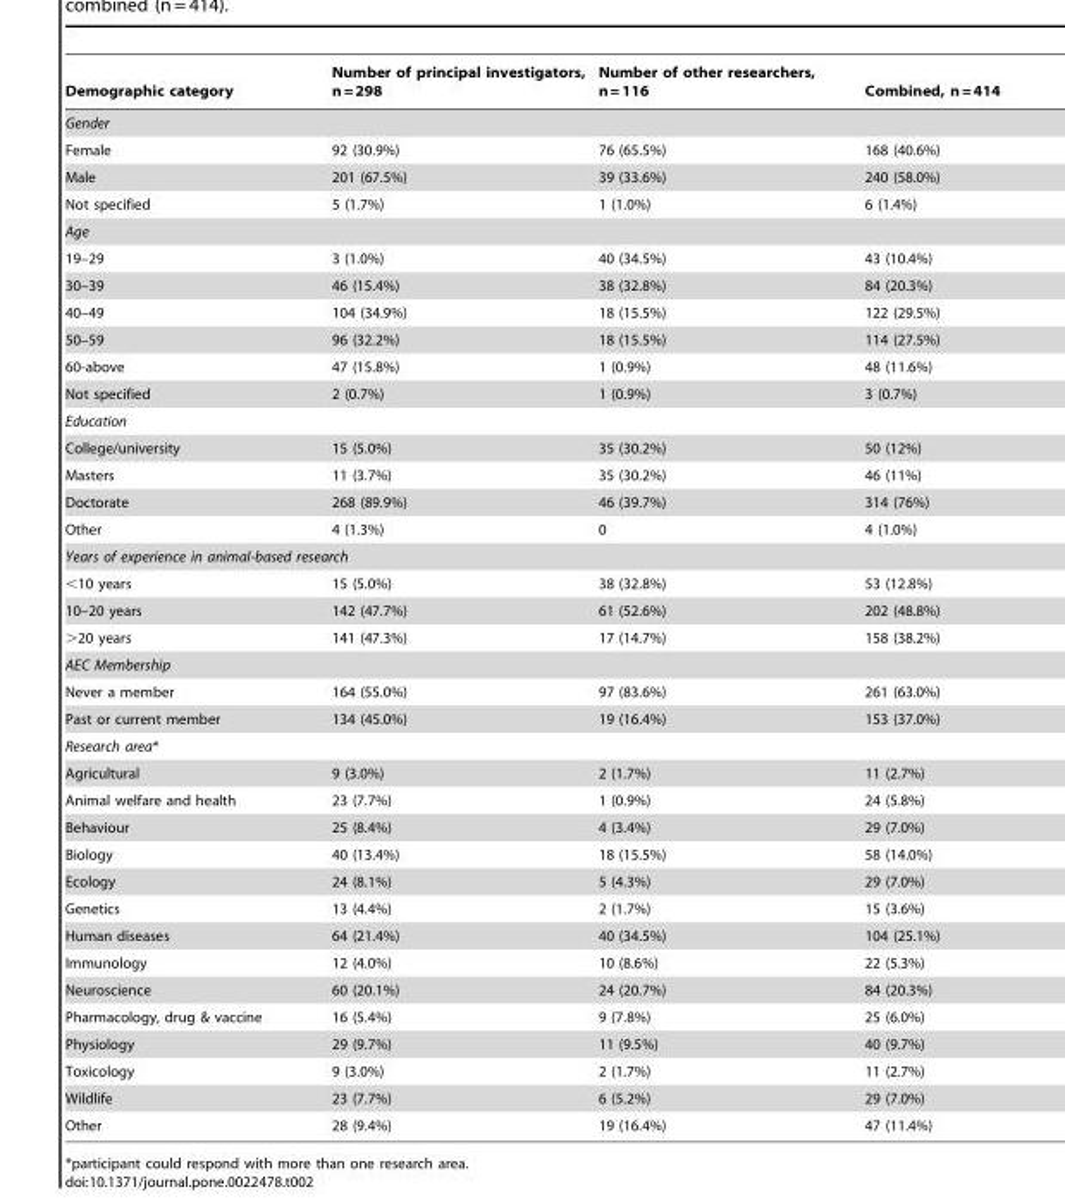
<table><thead><tr><td>Demographic category</td><td>Number of principal investigators, n = 298</td><td>Number of other researchers, n = 116</td><td>Combined, n = 414</td></tr></thead><tbody><tr><td colspan="4">Gender</td></tr><tr><td>Female</td><td>92 (30.9%)</td><td>76 (65.5%)</td><td>168 (40.6%)</td></tr><tr><td>Male</td><td>201 (67.5%)</td><td>39 (33.6%)</td><td>240 (58.0%)</td></tr><tr><td>Not specified</td><td>5 (1.7%)</td><td>1 (1.0%)</td><td>6 (1.4%)</td></tr><tr><td colspan="4">Age</td></tr><tr><td>19–29</td><td>3 (1.0%)</td><td>40 (34.5%)</td><td>43 (10.4%)</td></tr><tr><td>30–39</td><td>46 (15.4%)</td><td>38 (32.8%)</td><td>84 (20.3%)</td></tr><tr><td>40–49</td><td>104 (34.9%)</td><td>18 (15.5%)</td><td>122 (29.5%)</td></tr><tr><td>50–59</td><td>96 (32.2%)</td><td>18 (15.5%)</td><td>114 (27.5%)</td></tr><tr><td>60-above</td><td>47 (15.8%)</td><td>1 (0.9%)</td><td>48 (11.6%)</td></tr><tr><td>Not specified</td><td>2 (0.7%)</td><td>1 (0.9%)</td><td>3 (0.7%)</td></tr><tr><td colspan="4">Education</td></tr><tr><td>College/university</td><td>15 (5.0%)</td><td>35 (30.2%)</td><td>50 (12%)</td></tr><tr><td>Masters</td><td>11 (3.7%)</td><td>35 (30.2%)</td><td>46 (11%)</td></tr><tr><td>Doctorate</td><td>268 (89.9%)</td><td>46 (39.7%)</td><td>314 (76%)</td></tr><tr><td>Other</td><td>4 (1.3%)</td><td>0</td><td>4 (1.0%)</td></tr><tr><td colspan="4">Years of experience in animal-based research</td></tr><tr><td>&lt;10 years</td><td>15 (5.0%)</td><td>38 (32.8%)</td><td>53 (12.8%)</td></tr><tr><td>10–20 years</td><td>142 (47.7%)</td><td>61 (52.6%)</td><td>202 (48.8%)</td></tr><tr><td>&gt;20 years</td><td>141 (47.3%)</td><td>17 (14.7%)</td><td>158 (38.2%)</td></tr><tr><td colspan="4">AEC Membership</td></tr><tr><td>Never a member</td><td>164 (55.0%)</td><td>97 (83.6%)</td><td>261 (63.0%)</td></tr><tr><td>Past or current member</td><td>134 (45.0%)</td><td>19 (16.4%)</td><td>153 (37.0%)</td></tr><tr><td colspan="4">Research area*</td></tr><tr><td>Agricultural</td><td>9 (3.0%)</td><td>2 (1.7%)</td><td>11 (2.7%)</td></tr><tr><td>Animal welfare and health</td><td>23 (7.7%)</td><td>1 (0.9%)</td><td>24 (5.8%)</td></tr><tr><td>Behaviour</td><td>25 (8.4%)</td><td>4 (3.4%)</td><td>29 (7.0%)</td></tr><tr><td>Biology</td><td>40 (13.4%)</td><td>18 (15.5%)</td><td>58 (14.0%)</td></tr><tr><td>Ecology</td><td>24 (8.1%)</td><td>5 (4.3%)</td><td>29 (7.0%)</td></tr><tr><td>Genetics</td><td>13 (4.4%)</td><td>2 (1.7%)</td><td>15 (3.6%)</td></tr><tr><td>Human diseases</td><td>64 (21.4%)</td><td>40 (34.5%)</td><td>104 (25.1%)</td></tr><tr><td>Immunology</td><td>12 (4.0%)</td><td>10 (8.6%)</td><td>22 (5.3%)</td></tr><tr><td>Neuroscience</td><td>60 (20.1%)</td><td>24 (20.7%)</td><td>84 (20.3%)</td></tr><tr><td>Pharmacology, drug &amp; vaccine</td><td>16 (5.4%)</td><td>9 (7.8%)</td><td>25 (6.0%)</td></tr><tr><td>Physiology</td><td>29 (9.7%)</td><td>11 (9.5%)</td><td>40 (9.7%)</td></tr><tr><td>Toxicology</td><td>9 (3.0%)</td><td>2 (1.7%)</td><td>11 (2.7%)</td></tr><tr><td>Wildlife</td><td>23 (7.7%)</td><td>6 (5.2%)</td><td>29 (7.0%)</td></tr><tr><td>Other</td><td>28 (9.4%)</td><td>19 (16.4%)</td><td>47 (11.4%)</td></tr></tbody></table>